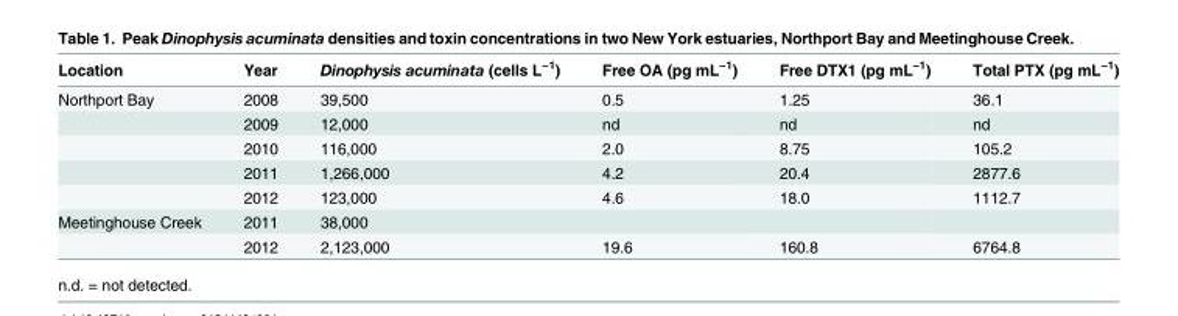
<table><thead><tr><td>Location</td><td>Year</td><td>Dinophysis acuminata (cells L<sup>−1</sup>)</td><td>Free OA (pg mL<sup>−1</sup>)</td><td>Free DTX1 (pg mL<sup>−1</sup>)</td><td>Total PTX (pg mL<sup>−1</sup>)</td></tr></thead><tbody><tr><td rowspan="5">Northport Bay</td><td>2008</td><td>39,500</td><td>0.5</td><td>1.25</td><td>36.1</td></tr><tr><td>2009</td><td>12,000</td><td>nd</td><td>nd</td><td>nd</td></tr><tr><td>2010</td><td>116,000</td><td>2.0</td><td>8.75</td><td>105.2</td></tr><tr><td>2011</td><td>1,266,000</td><td>4.2</td><td>20.4</td><td>2877.6</td></tr><tr><td>2012</td><td>123,000</td><td>4.6</td><td>18.0</td><td>1112.7</td></tr><tr><td rowspan="2">Meetinghouse Creek</td><td>2011</td><td>38,000</td><td></td><td></td><td></td></tr><tr><td>2012</td><td>2,123,000</td><td>19.6</td><td>160.8</td><td>6764.8</td></tr></tbody></table>